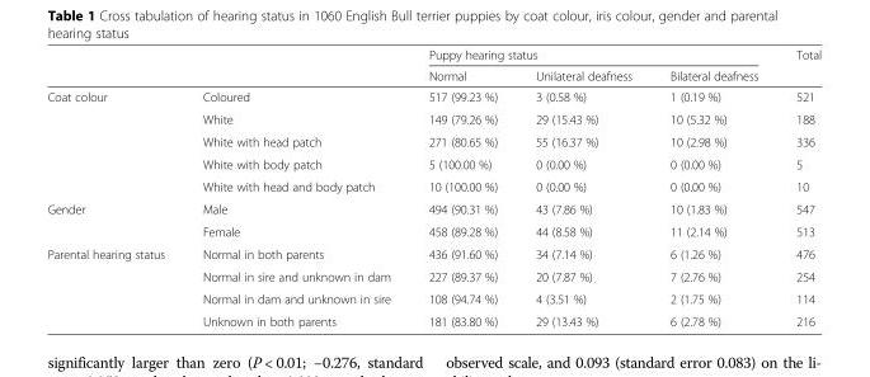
<table><thead><tr><td rowspan="2"></td><td rowspan="2"></td><td colspan="3">Puppy hearing status</td><td rowspan="2">Total</td></tr><tr><td>Normal</td><td>Unilateral deafness</td><td>Bilateral deafness</td></tr></thead><tbody><tr><td rowspan="5">Coat colour</td><td>Coloured</td><td>517 (99.23 %)</td><td>3 (0.58 %)</td><td>1 (0.19 %)</td><td>521</td></tr><tr><td>White</td><td>149 (79.26 %)</td><td>29 (15.43 %)</td><td>10 (5.32 %)</td><td>188</td></tr><tr><td>White with head patch</td><td>271 (80.65 %)</td><td>55 (16.37 %)</td><td>10 (2.98 %)</td><td>336</td></tr><tr><td>White with body patch</td><td>5 (100.00 %)</td><td>0 (0.00 %)</td><td>0 (0.00 %)</td><td>5</td></tr><tr><td>White with head and body patch</td><td>10 (100.00 %)</td><td>0 (0.00 %)</td><td>0 (0.00 %)</td><td>10</td></tr><tr><td rowspan="2">Gender</td><td>Male</td><td>494 (90.31 %)</td><td>43 (7.86 %)</td><td>10 (1.83 %)</td><td>547</td></tr><tr><td>Female</td><td>458 (89.28 %)</td><td>44 (8.58 %)</td><td>11 (2.14 %)</td><td>513</td></tr><tr><td rowspan="4">Parental hearing status</td><td>Normal in both parents</td><td>436 (91.60 %)</td><td>34 (7.14 %)</td><td>6 (1.26 %)</td><td>476</td></tr><tr><td>Normal in sire and unknown in dam</td><td>227 (89.37 %)</td><td>20 (7.87 %)</td><td>7 (2.76 %)</td><td>254</td></tr><tr><td>Normal in dam and unknown in sire</td><td>108 (94.74 %)</td><td>4 (3.51 %)</td><td>2 (1.75 %)</td><td>114</td></tr><tr><td>Unknown in both parents</td><td>181 (83.80 %)</td><td>29 (13.43 %)</td><td>6 (2.78 %)</td><td>216</td></tr></tbody></table>